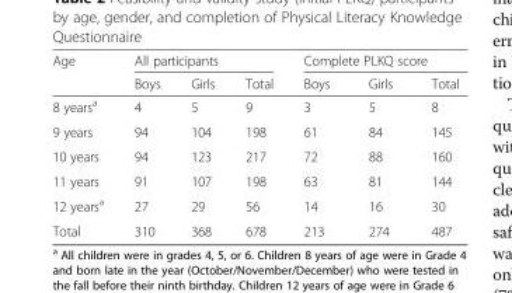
<table><thead><tr><td rowspan="2">Age</td><td colspan="3">All participants</td><td colspan="3">Complete PLKQ score</td></tr><tr><td>Boys</td><td>Girls</td><td>Total</td><td>Boys</td><td>Girls</td><td>Total</td></tr></thead><tbody><tr><td>8 years<sup>a</sup></td><td>4</td><td>5</td><td>9</td><td>3</td><td>5</td><td>8</td></tr><tr><td>9 years</td><td>94</td><td>104</td><td>198</td><td>61</td><td>84</td><td>145</td></tr><tr><td>10 years</td><td>94</td><td>123</td><td>217</td><td>72</td><td>88</td><td>160</td></tr><tr><td>11 years</td><td>91</td><td>107</td><td>198</td><td>63</td><td>81</td><td>144</td></tr><tr><td>12 years<sup>a</sup></td><td>27</td><td>29</td><td>56</td><td>14</td><td>16</td><td>30</td></tr><tr><td>Total</td><td>310</td><td>368</td><td>678</td><td>213</td><td>274</td><td>487</td></tr></tbody></table>